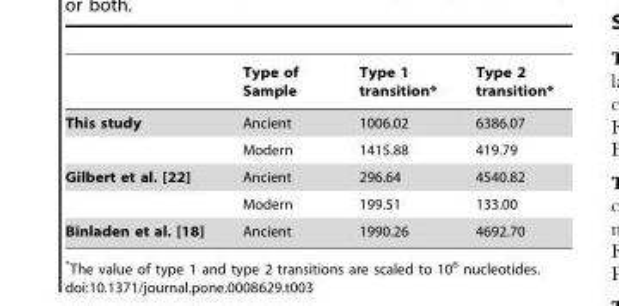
<table><thead><tr><td></td><td>Type of Sample</td><td>Type 1 transition*</td><td>Type 2 transition*</td></tr></thead><tbody><tr><td rowspan="2">This study</td><td>Ancient</td><td>1006.02</td><td>6386.07</td></tr><tr><td>Modern</td><td>1415.88</td><td>419.79</td></tr><tr><td rowspan="2">Gilbert et al. [22]</td><td>Ancient</td><td>296.64</td><td>4540.82</td></tr><tr><td>Modern</td><td>199.51</td><td>133.00</td></tr><tr><td>Binladen et al. [18]</td><td>Ancient</td><td>1990.26</td><td>4692.70</td></tr></tbody></table>